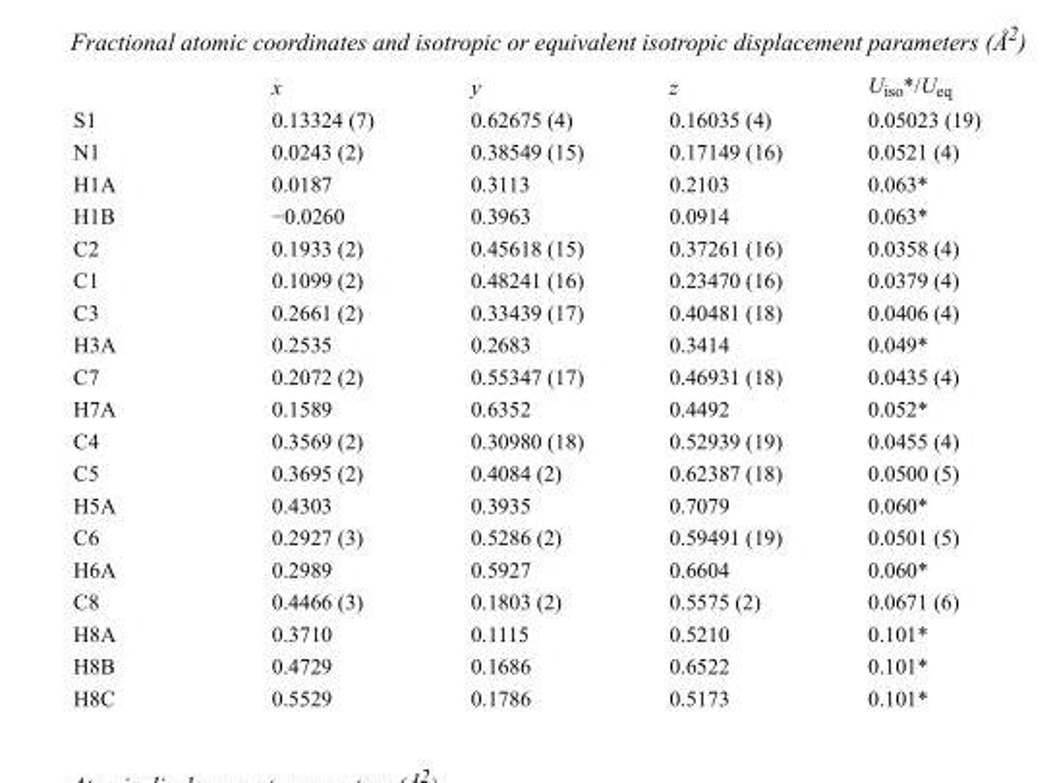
<table><thead><tr><td></td><td>x</td><td>y</td><td>z</td><td>U<sub>iso</sub>*/U<sub>eq</sub></td></tr></thead><tbody><tr><td>S1</td><td>0.13324 (7)</td><td>0.62675 (4)</td><td>0.16035 (4)</td><td>0.05023 (19)</td></tr><tr><td>N1</td><td>0.0243 (2)</td><td>0.38549 (15)</td><td>0.17149 (16)</td><td>0.0521 (4)</td></tr><tr><td>H1A</td><td>0.0187</td><td>0.3113</td><td>0.2103</td><td>0.063*</td></tr><tr><td>H1B</td><td>−0.0260</td><td>0.3963</td><td>0.0914</td><td>0.063*</td></tr><tr><td>C2</td><td>0.1933 (2)</td><td>0.45618 (15)</td><td>0.37261 (16)</td><td>0.0358 (4)</td></tr><tr><td>C1</td><td>0.1099 (2)</td><td>0.48241 (16)</td><td>0.23470 (16)</td><td>0.0379 (4)</td></tr><tr><td>C3</td><td>0.2661 (2)</td><td>0.33439 (17)</td><td>0.40481 (18)</td><td>0.0406 (4)</td></tr><tr><td>H3A</td><td>0.2535</td><td>0.2683</td><td>0.3414</td><td>0.049*</td></tr><tr><td>C7</td><td>0.2072 (2)</td><td>0.55347 (17)</td><td>0.46931 (18)</td><td>0.0435 (4)</td></tr><tr><td>H7A</td><td>0.1589</td><td>0.6352</td><td>0.4492</td><td>0.052*</td></tr><tr><td>C4</td><td>0.3569 (2)</td><td>0.30980 (18)</td><td>0.52939 (19)</td><td>0.0455 (4)</td></tr><tr><td>C5</td><td>0.3695 (2)</td><td>0.4084 (2)</td><td>0.62387 (18)</td><td>0.0500 (5)</td></tr><tr><td>H5A</td><td>0.4303</td><td>0.3935</td><td>0.7079</td><td>0.060*</td></tr><tr><td>C6</td><td>0.2927 (3)</td><td>0.5286 (2)</td><td>0.59491 (19)</td><td>0.0501 (5)</td></tr><tr><td>H6A</td><td>0.2989</td><td>0.5927</td><td>0.6604</td><td>0.060*</td></tr><tr><td>C8</td><td>0.4466 (3)</td><td>0.1803 (2)</td><td>0.5575 (2)</td><td>0.0671 (6)</td></tr><tr><td>H8A</td><td>0.3710</td><td>0.1115</td><td>0.5210</td><td>0.101*</td></tr><tr><td>H8B</td><td>0.4729</td><td>0.1686</td><td>0.6522</td><td>0.101*</td></tr><tr><td>H8C</td><td>0.5529</td><td>0.1786</td><td>0.5173</td><td>0.101*</td></tr></tbody></table>